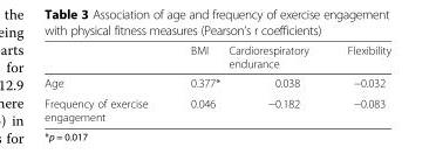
<table><thead><tr><td></td><td>BMI</td><td>Cardiorespiratory endurance</td><td>Flexibility</td></tr></thead><tbody><tr><td>Age</td><td>0.377*</td><td>0.038</td><td>−0.032</td></tr><tr><td>Frequency of exercise engagement</td><td>0.046</td><td>−0.182</td><td>−0.083</td></tr></tbody></table>